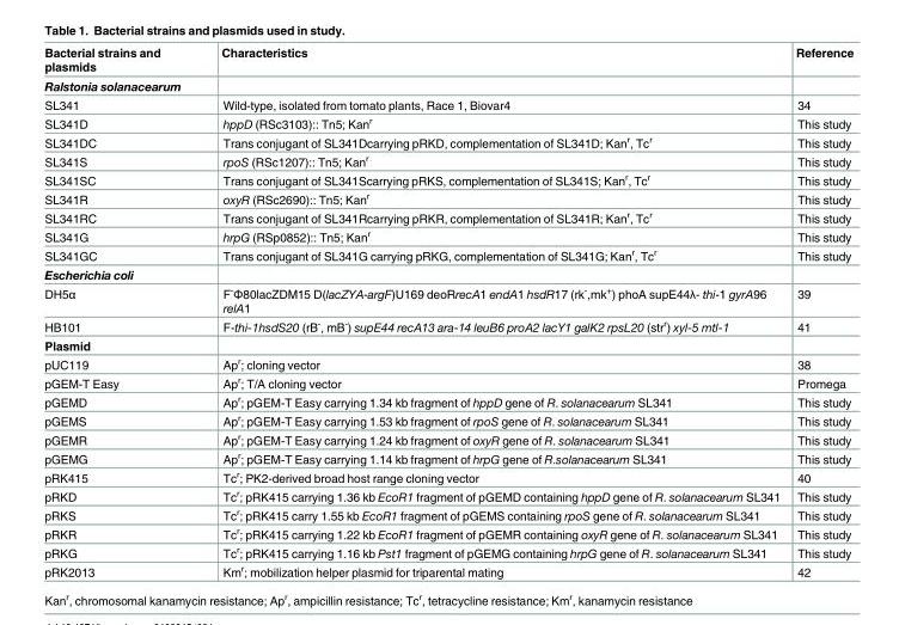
<table><thead><tr><td>Bacterial strains and plasmids</td><td>Characteristics</td><td>Reference</td></tr></thead><tbody><tr><td colspan="3">Ralstonia solanacearum</td></tr><tr><td>SL341</td><td>Wild-type, isolated from tomato plants, Race 1, Biovar4</td><td>34</td></tr><tr><td>SL341D</td><td>hppD (RSc3103):: Tn5; Kan<sup>r</sup></td><td>This study</td></tr><tr><td>SL341DC</td><td>Trans conjugant of SL341Dcarrying pRKD, complementation of SL341D; Kan<sup>r</sup>, Tc<sup>r</sup></td><td>This study</td></tr><tr><td>SL341S</td><td>rpoS (RSc1207):: Tn5; Kan<sup>r</sup></td><td>This study</td></tr><tr><td>SL341SC</td><td>Trans conjugant of SL341Scarrying pRKS, complementation of SL341S; Kan<sup>r</sup>, Tc<sup>r</sup></td><td>This study</td></tr><tr><td>SL341R</td><td>oxyR (RSc2690):: Tn5; Kan<sup>r</sup></td><td>This study</td></tr><tr><td>SL341RC</td><td>Trans conjugant of SL341Rcarrying pRKR, complementation of SL341R; Kan<sup>r</sup>, Tc<sup>r</sup></td><td>This study</td></tr><tr><td>SL341G</td><td>hrpG (RSp0852):: Tn5; Kan<sup>r</sup></td><td>This study</td></tr><tr><td>SL341GC</td><td>Trans conjugant of SL341G carrying pRKG, complementation of SL341G; Kan<sup>r</sup>, Tc<sup>r</sup></td><td>This study</td></tr><tr><td colspan="3">Escherichia coli</td></tr><tr><td>DH5α</td><td>F-Φ80lacZDM15 D(lacZYA-argF)U169 deoRrecA1 endA1 hsdR17 (rk-,mk+) phoA supE44λ- thi-1 gyrA96 relA1</td><td>39</td></tr><tr><td>HB101</td><td>F-thi-1hsdS20 (rB<sup>-</sup>, mB<sup>-</sup>) supE44 recA13 ara-14 leuB6 proA2 lacY1 galK2 rpsL20 (str<sup>r</sup>) xyl-5 mtl-1</td><td>41</td></tr><tr><td colspan="3">Plasmid</td></tr><tr><td>pUC119</td><td>Ap<sup>r</sup>; cloning vector</td><td>38</td></tr><tr><td>pGEM-T Easy</td><td>Ap<sup>r</sup>; T/A cloning vector</td><td>Promega</td></tr><tr><td>pGEMD</td><td>Ap<sup>r</sup>; pGEM-T Easy carrying 1.34 kb fragment of hppD gene of R. solanacearum SL341</td><td>This study</td></tr><tr><td>pGEMS</td><td>Ap<sup>r</sup>; pGEM-T Easy carrying 1.53 kb fragment of rpoS gene of R. solanacearum SL341</td><td>This study</td></tr><tr><td>pGEMR</td><td>Ap<sup>r</sup>; pGEM-T Easy carrying 1.24 kb fragment of oxyR gene of R. solanacearum SL341</td><td>This study</td></tr><tr><td>pGEMG</td><td>Ap<sup>r</sup>; pGEM-T Easy carrying 1.14 kb fragment of hrpG gene of R.solanacearum SL341</td><td>This study</td></tr><tr><td>pRK415</td><td>Tc<sup>r</sup>; PK2-derived broad host range cloning vector</td><td>40</td></tr><tr><td>pRKD</td><td>Tc<sup>r</sup>; pRK415 carrying 1.36 kb EcoR1 fragment of pGEMD containing hppD gene of R. solanacearum SL341</td><td>This study</td></tr><tr><td>pRKS</td><td>Tc<sup>r</sup>; pRK415 carry 1.55 kb EcoR1 fragment of pGEMS containing rpoS gene of R. solanacearum SL341</td><td>This study</td></tr><tr><td>pRKR</td><td>Tc<sup>r</sup>; pRK415 carrying 1.22 kb EcoR1 fragment of pGEMR containing oxyR gene of R. solanacearum SL341</td><td>This study</td></tr><tr><td>pRKG</td><td>Tc<sup>r</sup>; pRK415 carrying 1.16 kb Pst1 fragment of pGEMG containing hrpG gene of R. solanacearum SL341</td><td>This study</td></tr><tr><td>pRK2013</td><td>Km<sup>r</sup>; mobilization helper plasmid for triparental mating</td><td>42</td></tr></tbody></table>